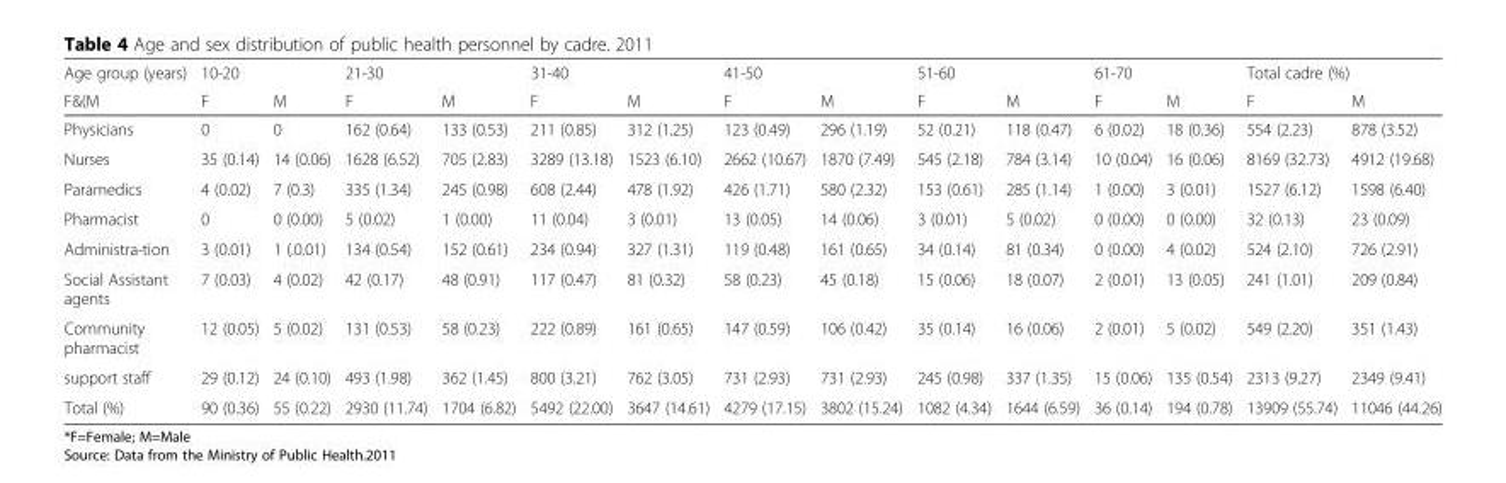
<table><thead><tr><td rowspan="2">Age group (years) F&amp;(M</td><td colspan="2">10-20</td><td colspan="2">21-30</td><td colspan="2">31-40</td><td colspan="2">41-50</td><td colspan="2">51-60</td><td colspan="2">61-70</td><td colspan="2">Total cadre (%)</td></tr><tr><td>F</td><td>M</td><td>F</td><td>M</td><td>F</td><td>M</td><td>F</td><td>M</td><td>F</td><td>M</td><td>F</td><td>M</td><td>F</td><td>M</td></tr></thead><tbody><tr><td>Physicians</td><td>0</td><td>0</td><td>162 (0.64)</td><td>133 (0.53)</td><td>211 (0.85)</td><td>312 (1.25)</td><td>123 (0.49)</td><td>296 (1.19)</td><td>52 (0.21)</td><td>118 (0.47)</td><td>6 (0.02)</td><td>18 (0.36)</td><td>554 (2.23)</td><td>878 (3.52)</td></tr><tr><td>Nurses</td><td>35 (0.14)</td><td>14 (0.06)</td><td>1628 (6.52)</td><td>705 (2.83)</td><td>3289 (13.18)</td><td>1523 (6.10)</td><td>2662 (10.67)</td><td>1870 (7.49)</td><td>545 (2.18)</td><td>784 (3.14)</td><td>10 (0.04)</td><td>16 (0.06)</td><td>8169 (32.73)</td><td>4912 (19.68)</td></tr><tr><td>Paramedics</td><td>4 (0.02)</td><td>7 (0.3)</td><td>335 (1.34)</td><td>245 (0.98)</td><td>608 (2.44)</td><td>478 (1.92)</td><td>426 (1.71)</td><td>580 (2.32)</td><td>153 (0.61)</td><td>285 (1.14)</td><td>1 (0.00)</td><td>3 (0.01)</td><td>1527 (6.12)</td><td>1598 (6.40)</td></tr><tr><td>Pharmacist</td><td>0</td><td>0 (0.00)</td><td>5 (0.02)</td><td>1 (0.00)</td><td>11 (0.04)</td><td>3 (0.01)</td><td>13 (0.05)</td><td>14 (0.06)</td><td>3 (0.01)</td><td>5 (0.02)</td><td>0 (0.00)</td><td>0 (0.00)</td><td>32 (0.13)</td><td>23 (0.09)</td></tr><tr><td>Administra-tion</td><td>3 (0.01)</td><td>1 (.0.01)</td><td>134 (0.54)</td><td>152 (0.61)</td><td>234 (0.94)</td><td>327 (1.31)</td><td>119 (0.48)</td><td>161 (0.65)</td><td>34 (0.14)</td><td>81 (0.34)</td><td>0 (0.00)</td><td>4 (0.02)</td><td>524 (2.10)</td><td>726 (2.91)</td></tr><tr><td>Social Assistant agents</td><td>7 (0.03)</td><td>4 (0.02)</td><td>42 (0.17)</td><td>48 (0.91)</td><td>117 (0.47)</td><td>81 (0.32)</td><td>58 (0.23)</td><td>45 (0.18)</td><td>15 (0.06)</td><td>18 (0.07)</td><td>2 (0.01)</td><td>13 (0.05)</td><td>241 (1.01)</td><td>209 (0.84)</td></tr><tr><td>Community pharmacist</td><td>12 (0.05)</td><td>5 (0.02)</td><td>131 (0.53)</td><td>58 (0.23)</td><td>222 (0.89)</td><td>161 (0.65)</td><td>147 (0.59)</td><td>106 (0.42)</td><td>35 (0.14)</td><td>16 (0.06)</td><td>2 (0.01)</td><td>5 (0.02)</td><td>549 (2.20)</td><td>351 (1.43)</td></tr><tr><td>support staff</td><td>29 (0.12)</td><td>24 (0.10)</td><td>493 (1.98)</td><td>362 (1.45)</td><td>800 (3.21)</td><td>762 (3.05)</td><td>731 (2.93)</td><td>731 (2.93)</td><td>245 (0.98)</td><td>337 (1.35)</td><td>15 (0.06)</td><td>135 (0.54)</td><td>2313 (9.27)</td><td>2349 (9.41)</td></tr><tr><td>Total (%)</td><td>90 (0.36)</td><td>55 (0.22)</td><td>2930 (11.74)</td><td>1704 (6.82)</td><td>5492 (22.00)</td><td>3647 (14.61)</td><td>4279 (17.15)</td><td>3802 (15.24)</td><td>1082 (4.34)</td><td>1644 (6.59)</td><td>36 (0.14)</td><td>194 (0.78)</td><td>13909 (55.74)</td><td>11046 (44.26)</td></tr></tbody></table>